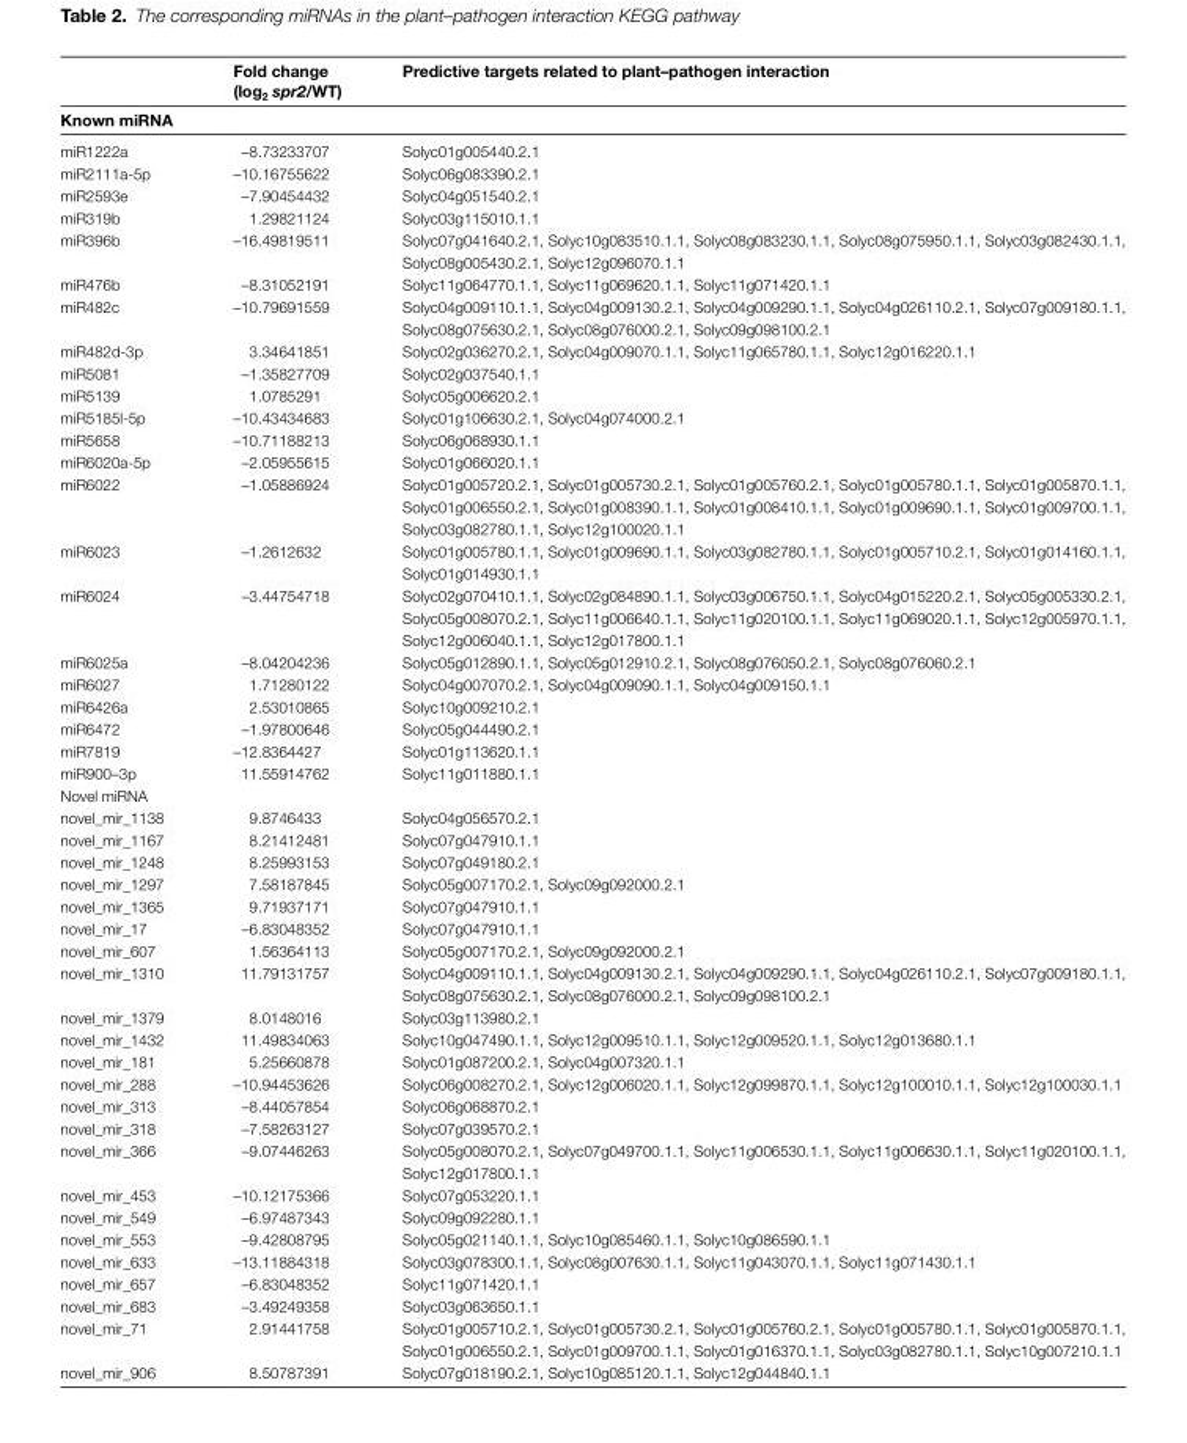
<table><thead><tr><td rowspan="2">Known miRNA</td><td rowspan="2">Fold change (log<sub>2</sub> spr2/WT)</td><td rowspan="2">Predictive targets related to plant–pathogen interaction</td></tr><tr></tr></thead><tbody><tr><td>miR1222a</td><td>–8.73233707</td><td>Solyc01g005440.2.1</td></tr><tr><td>miR2111a-5p</td><td>–10.16755622</td><td>Solyc06g083390.2.1</td></tr><tr><td>miR2593e</td><td>–7.90454432</td><td>Solyc04g051540.2.1</td></tr><tr><td>miR319b</td><td>1.29821124</td><td>Solyc03g115010.1.1</td></tr><tr><td>miR396b</td><td>–16.49819511</td><td>Solyc07g041640.2.1, Solyc10g083510.1.1, Solyc08g083230.1.1, Solyc08g075950.1.1, Solyc03g082430.1.1, Solyc08g005430.2.1, Solyc12g096070.1.1</td></tr><tr><td>miR476b</td><td>–8.31052191</td><td>Solyc11g064770.1.1, Solyc11g069620.1.1, Solyc11g071420.1.1</td></tr><tr><td>miR482c</td><td>–10.79691559</td><td>Solyc04g009110.1.1, Solyc04g009130.2.1, Solyc04g009290.1.1, Solyc04g026110.2.1, Solyc07g009180.1.1, Solyc08g075630.2.1, Solyc08g076000.2.1, Solyc09g098100.2.1</td></tr><tr><td>miR482d-3p</td><td>3.34641851</td><td>Solyc02g036270.2.1, Solyc04g009070.1.1, Solyc11g065780.1.1, Solyc12g016220.1.1</td></tr><tr><td>miR5081</td><td>–1.35827709</td><td>Solyc02g037540.1.1</td></tr><tr><td>miR5139</td><td>1.0785291</td><td>Solyc05g006620.2.1</td></tr><tr><td>miR5185l-5p</td><td>–10.43434683</td><td>Solyc01g106630.2.1, Solyc04g074000.2.1</td></tr><tr><td>miR5658</td><td>–10.71188213</td><td>Solyc06g068930.1.1</td></tr><tr><td>miR6020a-5p</td><td>–2.05955615</td><td>Solyc01g066020.1.1</td></tr><tr><td>miR6022</td><td>–1.05886924</td><td>Solyc01g005720.2.1, Solyc01g005730.2.1, Solyc01g005760.2.1, Solyc01g005780.1.1, Solyc01g005870.1.1, Solyc01g006550.2.1, Solyc01g008390.1.1, Solyc01g008410.1.1, Solyc01g009690.1.1, Solyc01g009700.1.1, Solyc03g082780.1.1, Solyc12g100020.1.1</td></tr><tr><td>miR6023</td><td>–1.2612632</td><td>Solyc01g005780.1.1, Solyc01g009690.1.1, Solyc03g082780.1.1, Solyc01g005710.2.1, Solyc01g014160.1.1, Solyc01g014930.1.1</td></tr><tr><td>miR6024</td><td>–3.44754718</td><td>Solyc02g070410.1.1, Solyc02g084890.1.1, Solyc03g006750.1.1, Solyc04g015220.2.1, Solyc05g005330.2.1, Solyc05g008070.2.1, Solyc11g006640.1.1, Solyc11g020100.1.1, Solyc11g069020.1.1, Solyc12g005970.1.1, Solyc12g006040.1.1, Solyc12g017800.1.1</td></tr><tr><td>miR6025a</td><td>–8.04204236</td><td>Solyc05g012890.1.1, Solyc05g012910.2.1, Solyc08g076050.2.1, Solyc08g076060.2.1</td></tr><tr><td>miR6027</td><td>1.71280122</td><td>Solyc04g007070.2.1, Solyc04g009090.1.1, Solyc04g009150.1.1</td></tr><tr><td>miR6426a</td><td>2.53010865</td><td>Solyc10g009210.2.1</td></tr><tr><td>miR6472</td><td>–1.97800646</td><td>Solyc05g044490.2.1</td></tr><tr><td>miR7819</td><td>–12.8364427</td><td>Solyc01g113620.1.1</td></tr><tr><td>miR900–3p</td><td>11.55914762</td><td>Solyc11g011880.1.1</td></tr><tr><td colspan="3">Novel miRNA</td></tr><tr><td>novel_mir_1138</td><td>9.8746433</td><td>Solyc04g056570.2.1</td></tr><tr><td>novel_mir_1167</td><td>8.21412481</td><td>Solyc07g047910.1.1</td></tr><tr><td>novel_mir_1248</td><td>8.25993153</td><td>Solyc07g049180.2.1</td></tr><tr><td>novel_mir_1297</td><td>7.58187845</td><td>Solyc05g007170.2.1, Solyc09g092000.2.1</td></tr><tr><td>novel_mir_1365</td><td>9.71937171</td><td>Solyc07g047910.1.1</td></tr><tr><td>novel_mir_17</td><td>–6.83048352</td><td>Solyc07g047910.1.1</td></tr><tr><td>novel_mir_607</td><td>1.56364113</td><td>Solyc05g007170.2.1, Solyc09g092000.2.1</td></tr><tr><td>novel_mir_1310</td><td>11.79131757</td><td>Solyc04g009110.1.1, Solyc04g009130.2.1, Solyc04g009290.1.1, Solyc04g026110.2.1, Solyc07g009180.1.1, Solyc08g075630.2.1, Solyc08g076000.2.1, Solyc09g098100.2.1</td></tr><tr><td>novel_mir_1379</td><td>8.0148016</td><td>Solyc03g113980.2.1</td></tr><tr><td>novel_mir_1432</td><td>11.49834063</td><td>Solyc10g047490.1.1, Solyc12g009510.1.1, Solyc12g009520.1.1, Solyc12g013680.1.1</td></tr><tr><td>novel_mir_181</td><td>5.25660878</td><td>Solyc01g087200.2.1, Solyc04g007320.1.1</td></tr><tr><td>novel_mir_288</td><td>–10.94453626</td><td>Solyc06g008270.2.1, Solyc12g006020.1.1, Solyc12g099870.1.1, Solyc12g100010.1.1, Solyc12g100030.1.1</td></tr><tr><td>novel_mir_313</td><td>–8.44057854</td><td>Solyc06g068870.2.1</td></tr><tr><td>novel_mir_318</td><td>–7.58263127</td><td>Solyc07g039570.2.1</td></tr><tr><td>novel_mir_366</td><td>–9.07446263</td><td>Solyc05g008070.2.1, Solyc07g049700.1.1, Solyc11g006530.1.1, Solyc11g006630.1.1, Solyc11g020100.1.1, Solyc12g017800.1.1</td></tr><tr><td>novel_mir_453</td><td>–10.12175366</td><td>Solyc07g053220.1.1</td></tr><tr><td>novel_mir_549</td><td>–6.97487343</td><td>Solyc09g092280.1.1</td></tr><tr><td>novel_mir_553</td><td>–9.42808795</td><td>Solyc05g021140.1.1, Solyc10g085460.1.1, Solyc10g086590.1.1</td></tr><tr><td>novel_mir_633</td><td>–13.11884318</td><td>Solyc03g078300.1.1, Solyc08g007630.1.1, Solyc11g043070.1.1, Solyc11g071430.1.1</td></tr><tr><td>novel_mir_657</td><td>–6.83048352</td><td>Solyc11g071420.1.1</td></tr><tr><td>novel_mir_683</td><td>–3.49249358</td><td>Solyc03g063650.1.1</td></tr><tr><td>novel_mir_71</td><td>2.91441758</td><td>Solyc01g005710.2.1, Solyc01g005730.2.1, Solyc01g005760.2.1, Solyc01g005780.1.1, Solyc01g005870.1.1, Solyc01g006550.2.1, Solyc01g009700.1.1, Solyc01g016370.1.1, Solyc03g082780.1.1, Solyc10g007210.1.1</td></tr><tr><td>novel_mir_906</td><td>8.50787391</td><td>Solyc07g018190.2.1, Solyc10g085120.1.1, Solyc12g044840.1.1</td></tr></tbody></table>